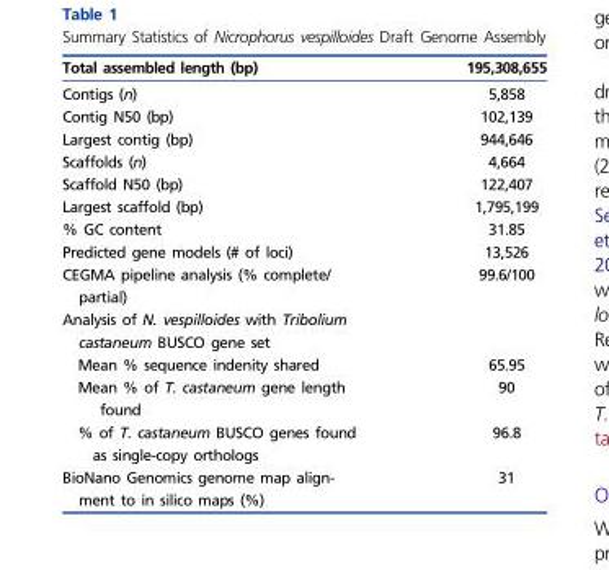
<table><thead><tr><td>Total assembled length (bp)</td><td>195,308,655</td></tr></thead><tbody><tr><td>Contigs (n)</td><td>5,858</td></tr><tr><td>Contig N50 (bp)</td><td>102,139</td></tr><tr><td>Largest contig (bp)</td><td>944,646</td></tr><tr><td>Scaffolds (n)</td><td>4,664</td></tr><tr><td>Scaffold N50 (bp)</td><td>122,407</td></tr><tr><td>Largest scaffold (bp)</td><td>1,795,199</td></tr><tr><td>% GC content</td><td>31.85</td></tr><tr><td>Predicted gene models (# of loci)</td><td>13,526</td></tr><tr><td>CEGMA pipeline analysis (% complete/ partial)</td><td>99.6/100</td></tr><tr><td colspan="2">Analysis of N. vespilloides with Tribolium castaneum BUSCO gene set</td></tr><tr><td>Mean % sequence indenity shared</td><td>65.95</td></tr><tr><td>Mean % of T. castaneum gene length found</td><td>90</td></tr><tr><td>% of T. castaneum BUSCO genes found as single-copy orthologs</td><td>96.8</td></tr><tr><td>BioNano Genomics genome map align- ment to in silico maps (%)</td><td>31</td></tr></tbody></table>